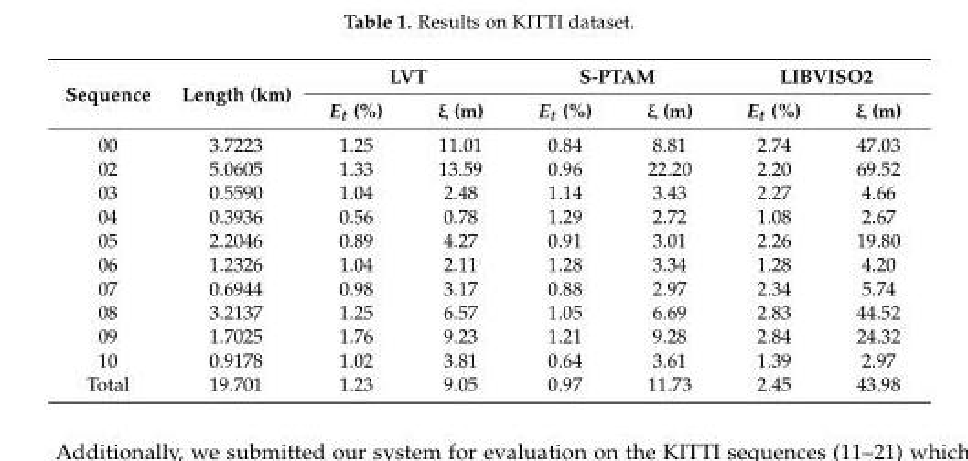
<table><thead><tr><td rowspan="2">Sequence</td><td rowspan="2">Length (km)</td><td colspan="2">LVT</td><td colspan="2">S-PTAM</td><td colspan="2">LIBVISO2</td></tr><tr><td>E<sub>t</sub> (%)</td><td>ξ (m)</td><td>E<sub>t</sub> (%)</td><td>ξ (m)</td><td>E<sub>t</sub> (%)</td><td>ξ (m)</td></tr></thead><tbody><tr><td>00</td><td>3.7223</td><td>1.25</td><td>11.01</td><td>0.84</td><td>8.81</td><td>2.74</td><td>47.03</td></tr><tr><td>02</td><td>5.0605</td><td>1.33</td><td>13.59</td><td>0.96</td><td>22.20</td><td>2.20</td><td>69.52</td></tr><tr><td>03</td><td>0.5590</td><td>1.04</td><td>2.48</td><td>1.14</td><td>3.43</td><td>2.27</td><td>4.66</td></tr><tr><td>04</td><td>0.3936</td><td>0.56</td><td>0.78</td><td>1.29</td><td>2.72</td><td>1.08</td><td>2.67</td></tr><tr><td>05</td><td>2.2046</td><td>0.89</td><td>4.27</td><td>0.91</td><td>3.01</td><td>2.26</td><td>19.80</td></tr><tr><td>06</td><td>1.2326</td><td>1.04</td><td>2.11</td><td>1.28</td><td>3.34</td><td>1.28</td><td>4.20</td></tr><tr><td>07</td><td>0.6944</td><td>0.98</td><td>3.17</td><td>0.88</td><td>2.97</td><td>2.34</td><td>5.74</td></tr><tr><td>08</td><td>3.2137</td><td>1.25</td><td>6.57</td><td>1.05</td><td>6.69</td><td>2.83</td><td>44.52</td></tr><tr><td>09</td><td>1.7025</td><td>1.76</td><td>9.23</td><td>1.21</td><td>9.28</td><td>2.84</td><td>24.32</td></tr><tr><td>10</td><td>0.9178</td><td>1.02</td><td>3.81</td><td>0.64</td><td>3.61</td><td>1.39</td><td>2.97</td></tr><tr><td>Total</td><td>19.701</td><td>1.23</td><td>9.05</td><td>0.97</td><td>11.73</td><td>2.45</td><td>43.98</td></tr></tbody></table>